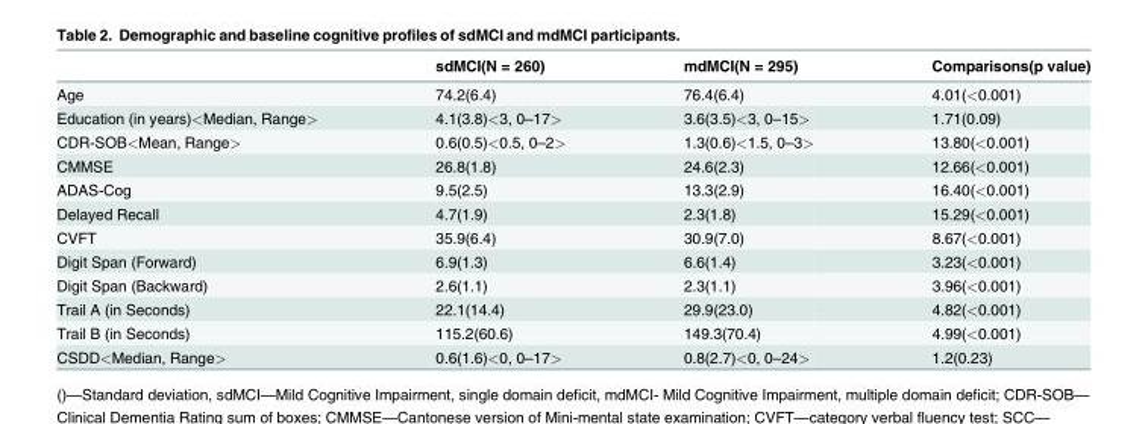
<table><thead><tr><td></td><td>sdMCI(N = 260)</td><td>mdMCI(N = 295)</td><td>Comparisons(p value)</td></tr></thead><tbody><tr><td>Age</td><td>74.2(6.4)</td><td>76.4(6.4)</td><td>4.01(&lt;0.001)</td></tr><tr><td>Education (in years)&lt;Median, Range&gt;</td><td>4.1(3.8)&lt;3, 0–17&gt;</td><td>3.6(3.5)&lt;3, 0–15&gt;</td><td>1.71(0.09)</td></tr><tr><td>CDR-SOB&lt;Mean, Range&gt;</td><td>0.6(0.5)&lt;0.5, 0–2&gt;</td><td>1.3(0.6)&lt;1.5, 0–3&gt;</td><td>13.80(&lt;0.001)</td></tr><tr><td>CMMSE</td><td>26.8(1.8)</td><td>24.6(2.3)</td><td>12.66(&lt;0.001)</td></tr><tr><td>ADAS-Cog</td><td>9.5(2.5)</td><td>13.3(2.9)</td><td>16.40(&lt;0.001)</td></tr><tr><td>Delayed Recall</td><td>4.7(1.9)</td><td>2.3(1.8)</td><td>15.29(&lt;0.001)</td></tr><tr><td>CVFT</td><td>35.9(6.4)</td><td>30.9(7.0)</td><td>8.67(&lt;0.001)</td></tr><tr><td>Digit Span (Forward)</td><td>6.9(1.3)</td><td>6.6(1.4)</td><td>3.23(&lt;0.001)</td></tr><tr><td>Digit Span (Backward)</td><td>2.6(1.1)</td><td>2.3(1.1)</td><td>3.96(&lt;0.001)</td></tr><tr><td>Trail A (in Seconds)</td><td>22.1(14.4)</td><td>29.9(23.0)</td><td>4.82(&lt;0.001)</td></tr><tr><td>Trail B (in Seconds)</td><td>115.2(60.6)</td><td>149.3(70.4)</td><td>4.99(&lt;0.001)</td></tr><tr><td>CSDD&lt;Median, Range&gt;</td><td>0.6(1.6)&lt;0, 0–17&gt;</td><td>0.8(2.7)&lt;0, 0–24&gt;</td><td>1.2(0.23)</td></tr></tbody></table>